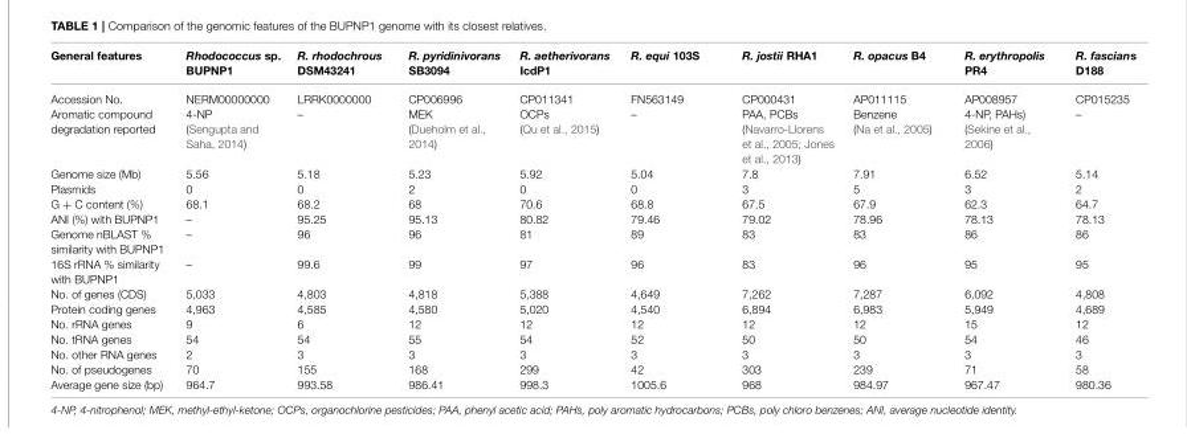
<table><thead><tr><td>General features</td><td>Rhodococcus sp. BUPNP1</td><td>R. rhodochrous DSM43241</td><td>R. pyridinivorans SB3094</td><td>R. aetherivorans IcdP1</td><td>R. equi 103S</td><td>R. jostii RHA1</td><td>R. opacus B4</td><td>R. erythropolis PR4</td><td>R. fascians D188</td></tr></thead><tbody><tr><td>Accession No.</td><td>NERM00000000</td><td>LRRK0000000</td><td>CP006996</td><td>CP011341</td><td>FN563149</td><td>CP000431</td><td>AP011115</td><td>AP008957</td><td>CP015235</td></tr><tr><td>Aromatic compound degradation reported</td><td>4-NP (Sengupta and Saha, 2014)</td><td>–</td><td>MEK (Dueholm et al., 2014)</td><td>OCPs (Qu et al., 2015)</td><td>–</td><td>PAA, PCBs (Navarro-Llorens et al., 2005; Jones et al., 2013)</td><td>Benzene (Na et al., 2005)</td><td>4-NP, PAHs) (Sekine et al., 2006)</td><td>–</td></tr><tr><td>Genome size (Mb)</td><td>5.56</td><td>5.18</td><td>5.23</td><td>5.92</td><td>5.04</td><td>7.8</td><td>7.91</td><td>6.52</td><td>5.14</td></tr><tr><td>Plasmids</td><td>0</td><td>0</td><td>2</td><td>0</td><td>0</td><td>3</td><td>5</td><td>3</td><td>2</td></tr><tr><td>G + C content (%)</td><td>68.1</td><td>68.2</td><td>68</td><td>70.6</td><td>68.8</td><td>67.5</td><td>67.9</td><td>62.3</td><td>64.7</td></tr><tr><td>ANI (%) with BUPNP1</td><td>–</td><td>95.25</td><td>95.13</td><td>80.82</td><td>79.46</td><td>79.02</td><td>78.96</td><td>78.13</td><td>78.13</td></tr><tr><td>Genome nBLAST % similarity with BUPNP1</td><td>–</td><td>96</td><td>96</td><td>81</td><td>89</td><td>83</td><td>83</td><td>86</td><td>86</td></tr><tr><td>16S rRNA % similarity with BUPNP1</td><td>–</td><td>99.6</td><td>99</td><td>97</td><td>96</td><td>83</td><td>96</td><td>95</td><td>95</td></tr><tr><td>No. of genes (CDS)</td><td>5,033</td><td>4,803</td><td>4,818</td><td>5,388</td><td>4,649</td><td>7,262</td><td>7,287</td><td>6,092</td><td>4,808</td></tr><tr><td>Protein coding genes</td><td>4,963</td><td>4,585</td><td>4,580</td><td>5,020</td><td>4,540</td><td>6,894</td><td>6,983</td><td>5,949</td><td>4,689</td></tr><tr><td>No. rRNA genes</td><td>9</td><td>6</td><td>12</td><td>12</td><td>12</td><td>12</td><td>12</td><td>15</td><td>12</td></tr><tr><td>No. tRNA genes</td><td>54</td><td>54</td><td>55</td><td>54</td><td>52</td><td>50</td><td>50</td><td>54</td><td>46</td></tr><tr><td>No. other RNA genes</td><td>2</td><td>3</td><td>3</td><td>3</td><td>3</td><td>3</td><td>3</td><td>3</td><td>3</td></tr><tr><td>No. of pseudogenes</td><td>70</td><td>155</td><td>168</td><td>299</td><td>42</td><td>303</td><td>239</td><td>71</td><td>58</td></tr><tr><td>Average gene size (bp)</td><td>964.7</td><td>993.58</td><td>986.41</td><td>998.3</td><td>1005.6</td><td>968</td><td>984.97</td><td>967.47</td><td>980.36</td></tr></tbody></table>